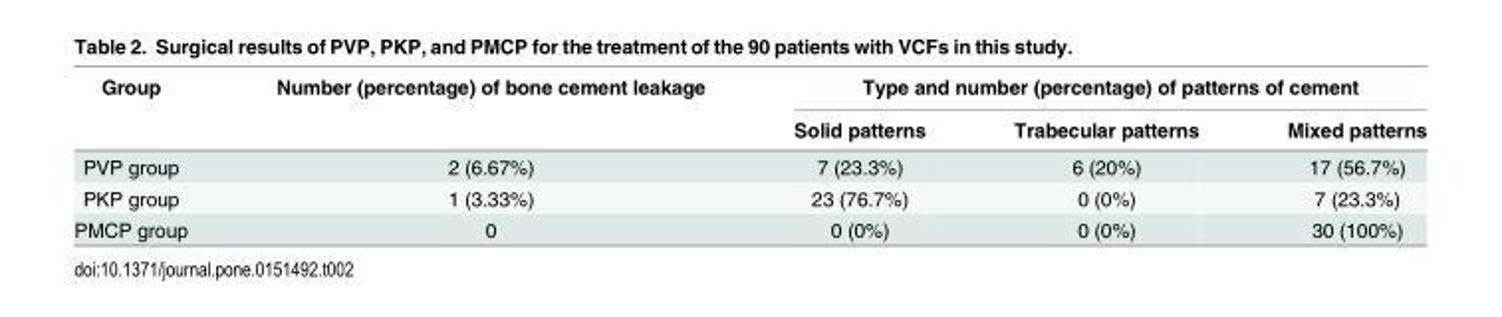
<table><thead><tr><td rowspan="2">Group</td><td rowspan="2">Number (percentage) of bone cement leakage</td><td colspan="3">Type and number (percentage) of patterns of cement</td></tr><tr><td>Solid patterns</td><td>Trabecular patterns</td><td>Mixed patterns</td></tr></thead><tbody><tr><td>PVP group</td><td>2 (6.67%)</td><td>7 (23.3%)</td><td>6 (20%)</td><td>17 (56.7%)</td></tr><tr><td>PKP group</td><td>1 (3.33%)</td><td>23 (76.7%)</td><td>0 (0%)</td><td>7 (23.3%)</td></tr><tr><td>PMCP group</td><td>0</td><td>0 (0%)</td><td>0 (0%)</td><td>30 (100%)</td></tr></tbody></table>